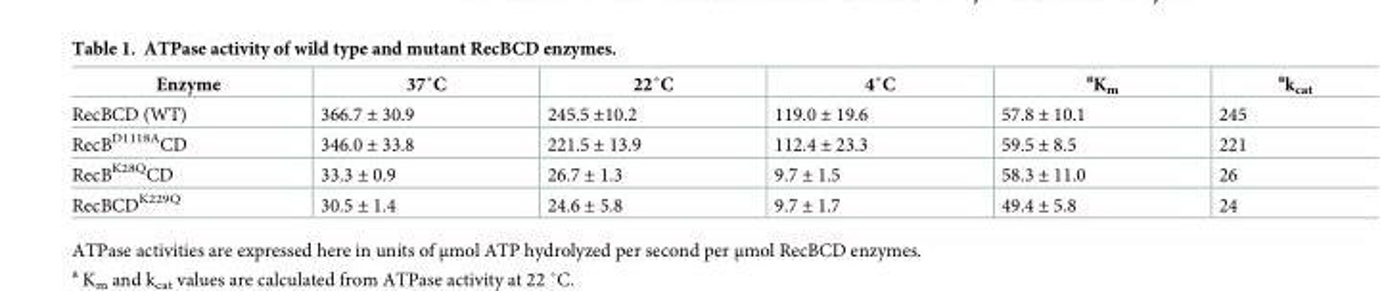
<table><thead><tr><td>Enzyme</td><td>37˚C</td><td>22˚C</td><td>4˚C</td><td><sup>a</sup>K<sub>m</sub></td><td><sup>a</sup>k<sub>cat</sub></td></tr></thead><tbody><tr><td>RecBCD (WT)</td><td>366.7 ± 30.9</td><td>245.5 ±10.2</td><td>119.0 ± 19.6</td><td>57.8 ± 10.1</td><td>245</td></tr><tr><td>RecB<sup>D1118A</sup>CD</td><td>346.0 ± 33.8</td><td>221.5 ± 13.9</td><td>112.4 ± 23.3</td><td>59.5 ± 8.5</td><td>221</td></tr><tr><td>RecB<sup>K28Q</sup>CD</td><td>33.3 ± 0.9</td><td>26.7 ± 1.3</td><td>9.7 ± 1.5</td><td>58.3 ± 11.0</td><td>26</td></tr><tr><td>RecBCD<sup>K229Q</sup></td><td>30.5 ± 1.4</td><td>24.6 ± 5.8</td><td>9.7 ± 1.7</td><td>49.4 ± 5.8</td><td>24</td></tr></tbody></table>